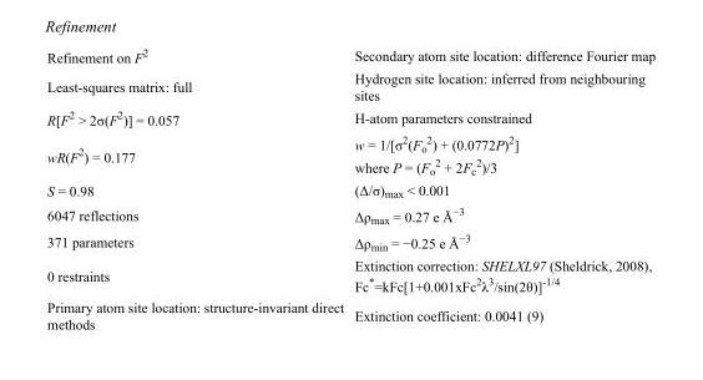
<table><tbody><tr><td>Refinement on F<sup>2</sup></td><td>Secondary atom site location: difference Fourier map</td></tr><tr><td>Least-squares matrix: full</td><td>Hydrogen site location: inferred from neighbouring sites</td></tr><tr><td>R[F<sup>2</sup> &gt; 2σ(F<sup>2</sup>)] = 0.057</td><td>H-atom parameters constrained</td></tr><tr><td>wR(F<sup>2</sup>) = 0.177</td><td>w = 1/[σ<sup>2</sup>(F<sub>o</sub> <sup>2</sup>) + (0.0772P)<sup>2</sup>] where P = (F<sub>o</sub> <sup>2</sup> + 2F<sub>c</sub> <sup>2</sup>)/3</td></tr><tr><td>S = 0.98</td><td>(Δ/σ)<sub>max</sub> &lt; 0.001</td></tr><tr><td>6047 reflections</td><td>Δρ<sub>max</sub> = 0.27 e Å<sup>−3</sup></td></tr><tr><td>371 parameters</td><td>Δρ<sub>min</sub> = −0.25 e Å<sup>−3</sup></td></tr><tr><td>0 restraints</td><td>Extinction correction: SHELXL97 (Sheldrick, 2008), Fc*=kFc[1+0.001xFc<sup>2</sup>λ<sup>3</sup>/sin(2θ)]<sup>-1/4</sup></td></tr><tr><td>Primary atom site location: structure-invariant direct methods</td><td>Extinction coefficient: 0.0041 (9)</td></tr></tbody></table>